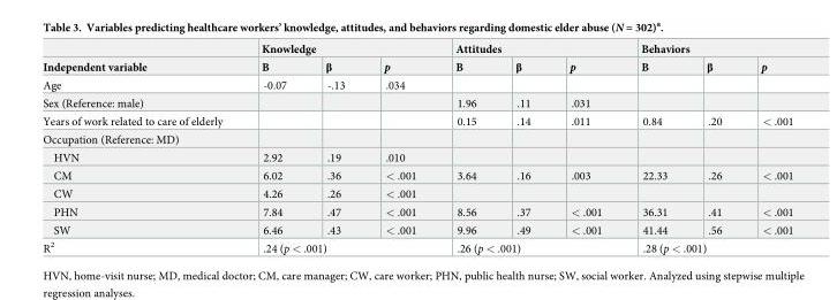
<table><thead><tr><td rowspan="2">Independent variable</td><td colspan="3">Knowledge</td><td colspan="3">Attitudes</td><td colspan="3">Behaviors</td></tr><tr><td>B</td><td>β</td><td>p</td><td>B</td><td>β</td><td>p</td><td>B</td><td>β</td><td>p</td></tr></thead><tbody><tr><td>Age</td><td>-0.07</td><td>-.13</td><td>.034</td><td></td><td></td><td></td><td></td><td></td><td></td></tr><tr><td>Sex (Reference: male)</td><td></td><td></td><td></td><td>1.96</td><td>.11</td><td>.031</td><td></td><td></td><td></td></tr><tr><td>Years of work related to care of elderly</td><td></td><td></td><td></td><td>0.15</td><td>.14</td><td>.011</td><td>0.84</td><td>.20</td><td>&lt; .001</td></tr><tr><td colspan="10">Occupation (Reference: MD)</td></tr><tr><td>HVN</td><td>2.92</td><td>.19</td><td>.010</td><td></td><td></td><td></td><td></td><td></td><td></td></tr><tr><td>CM</td><td>6.02</td><td>.36</td><td>&lt; .001</td><td>3.64</td><td>.16</td><td>.003</td><td>22.33</td><td>.26</td><td>&lt; .001</td></tr><tr><td>CW</td><td>4.26</td><td>.26</td><td>&lt; .001</td><td></td><td></td><td></td><td></td><td></td><td></td></tr><tr><td>PHN</td><td>7.84</td><td>.47</td><td>&lt; .001</td><td>8.56</td><td>.37</td><td>&lt; .001</td><td>36.31</td><td>.41</td><td>&lt; .001</td></tr><tr><td>SW</td><td>6.46</td><td>.43</td><td>&lt; .001</td><td>9.96</td><td>.49</td><td>&lt; .001</td><td>41.44</td><td>.56</td><td>&lt; .001</td></tr><tr><td>R<sup>2</sup></td><td colspan="3">.24 (p &lt; .001)</td><td colspan="3">.26 (p &lt; .001)</td><td colspan="3">.28 (p &lt; .001)</td></tr></tbody></table>